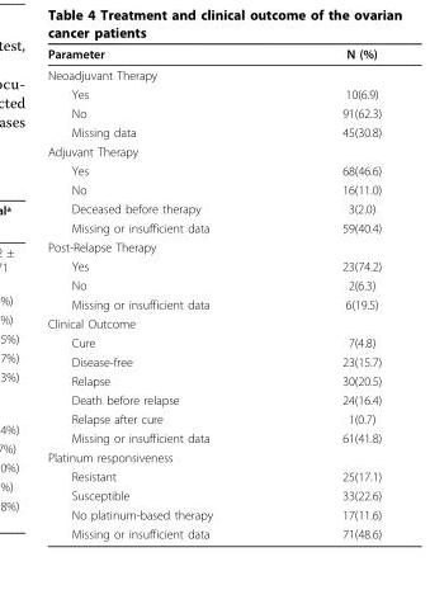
<table><thead><tr><td>Parameter</td><td>N (%)</td></tr></thead><tbody><tr><td colspan="2">Neoadjuvant Therapy</td></tr><tr><td>Yes</td><td>10(6.9)</td></tr><tr><td>No</td><td>91(62.3)</td></tr><tr><td>Missing data</td><td>45(30.8)</td></tr><tr><td colspan="2">Adjuvant Therapy</td></tr><tr><td>Yes</td><td>68(46.6)</td></tr><tr><td>No</td><td>16(11.0)</td></tr><tr><td>Deceased before therapy</td><td>3(2.0)</td></tr><tr><td>Missing or insufficient data</td><td>59(40.4)</td></tr><tr><td colspan="2">Post-Relapse Therapy</td></tr><tr><td>Yes</td><td>23(74.2)</td></tr><tr><td>No</td><td>2(6.3)</td></tr><tr><td>Missing or insufficient data</td><td>6(19.5)</td></tr><tr><td colspan="2">Clinical Outcome</td></tr><tr><td>Cure</td><td>7(4.8)</td></tr><tr><td>Disease-free</td><td>23(15.7)</td></tr><tr><td>Relapse</td><td>30(20.5)</td></tr><tr><td>Death before relapse</td><td>24(16.4)</td></tr><tr><td>Relapse after cure</td><td>1(0.7)</td></tr><tr><td>Missing or insufficient data</td><td>61(41.8)</td></tr><tr><td colspan="2">Platinum responsiveness</td></tr><tr><td>Resistant</td><td>25(17.1)</td></tr><tr><td>Susceptible</td><td>33(22.6)</td></tr><tr><td>No platinum-based therapy</td><td>17(11.6)</td></tr><tr><td>Missing or insufficient data</td><td>71(48.6)</td></tr></tbody></table>